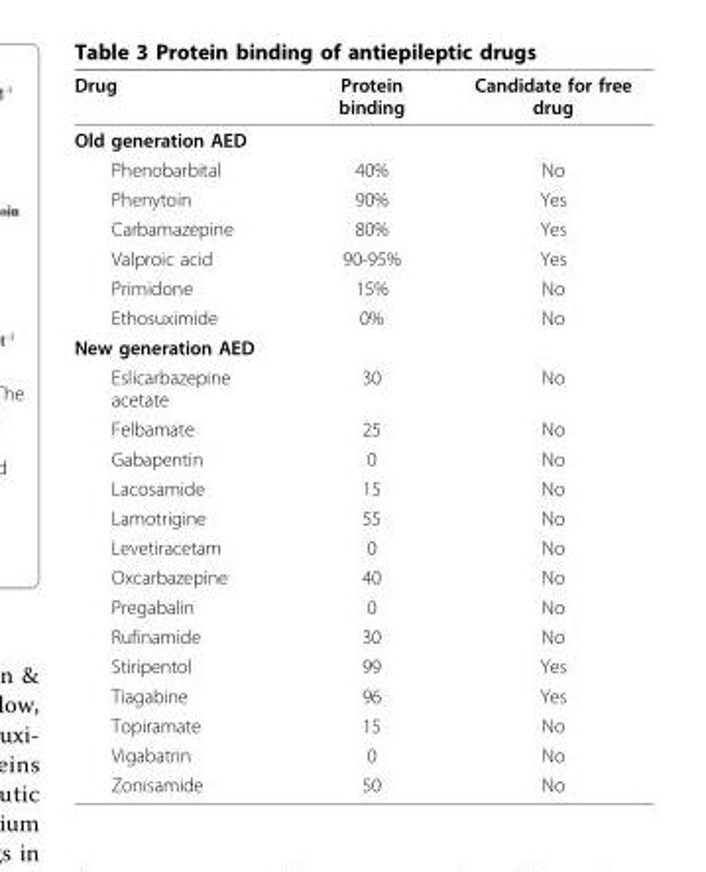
<table><thead><tr><td>Drug</td><td>Protein binding</td><td>Candidate for free drug</td></tr></thead><tbody><tr><td colspan="3">Old generation AED</td></tr><tr><td>Phenobarbital</td><td>40%</td><td>No</td></tr><tr><td>Phenytoin</td><td>90%</td><td>Yes</td></tr><tr><td>Carbamazepine</td><td>80%</td><td>Yes</td></tr><tr><td>Valproic acid</td><td>90-95%</td><td>Yes</td></tr><tr><td>Primidone</td><td>15%</td><td>No</td></tr><tr><td>Ethosuximide</td><td>0%</td><td>No</td></tr><tr><td colspan="3">New generation AED</td></tr><tr><td>Eslicarbazepine acetate</td><td>30</td><td>No</td></tr><tr><td>Felbamate</td><td>25</td><td>No</td></tr><tr><td>Gabapentin</td><td>0</td><td>No</td></tr><tr><td>Lacosamide</td><td>15</td><td>No</td></tr><tr><td>Lamotrigine</td><td>55</td><td>No</td></tr><tr><td>Levetiracetam</td><td>0</td><td>No</td></tr><tr><td>Oxcarbazepine</td><td>40</td><td>No</td></tr><tr><td>Pregabalin</td><td>0</td><td>No</td></tr><tr><td>Rufinamide</td><td>30</td><td>No</td></tr><tr><td>Stiripentol</td><td>99</td><td>Yes</td></tr><tr><td>Tiagabine</td><td>96</td><td>Yes</td></tr><tr><td>Topiramate</td><td>15</td><td>No</td></tr><tr><td>Vigabatrin</td><td>0</td><td>No</td></tr><tr><td>Zonisamide</td><td>50</td><td>No</td></tr></tbody></table>